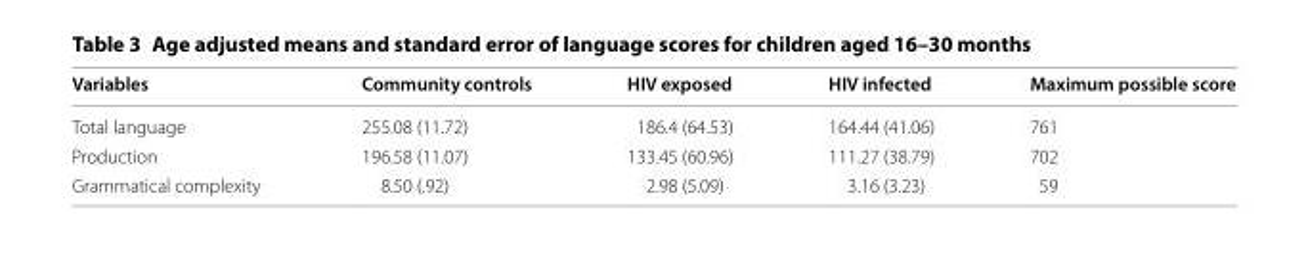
<table><thead><tr><td>Variables</td><td>Community controls</td><td>HIV exposed</td><td>HIV infected</td><td>Maximum possible score</td></tr></thead><tbody><tr><td>Total language</td><td>255.08 (11.72)</td><td>186.4 (64.53)</td><td>164.44 (41.06)</td><td>761</td></tr><tr><td>Production</td><td>196.58 (11.07)</td><td>133.45 (60.96)</td><td>111.27 (38.79)</td><td>702</td></tr><tr><td>Grammatical complexity</td><td>8.50 (.92)</td><td>2.98 (5.09)</td><td>3.16 (3.23)</td><td>59</td></tr></tbody></table>